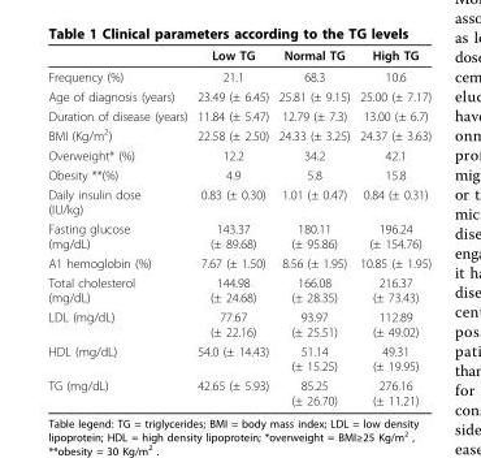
<table><thead><tr><td></td><td>Low TG</td><td>Normal TG</td><td>High TG</td></tr></thead><tbody><tr><td>Frequency (%)</td><td>21.1</td><td>68.3</td><td>10.6</td></tr><tr><td>Age of diagnosis (years)</td><td>23.49 (± 6.45)</td><td>25.81 (± 9.15)</td><td>25.00 (± 7.17)</td></tr><tr><td>Duration of disease (years)</td><td>11.84 (± 5.47)</td><td>12.79 (± 7.3)</td><td>13.00 (± 6.7)</td></tr><tr><td>BMI (Kg/m<sup>2</sup>)</td><td>22.58 (± 2.50)</td><td>24.33 (± 3.25)</td><td>24.37 (± 3.63)</td></tr><tr><td>Overweight* (%)</td><td>12.2</td><td>34.2</td><td>42.1</td></tr><tr><td>Obesity **(%)</td><td>4.9</td><td>5.8</td><td>15.8</td></tr><tr><td>Daily insulin dose (IU/kg)</td><td>0.83 (± 0.30)</td><td>1.01 (± 0.47)</td><td>0.84 (± 0.31)</td></tr><tr><td>Fasting glucose (mg/dL)</td><td>143.37 (± 89.68)</td><td>180.11 (± 95.86)</td><td>196.24 (± 154.76)</td></tr><tr><td>A1 hemoglobin (%)</td><td>7.67 (± 1.50)</td><td>8.56 (± 1.95)</td><td>10.85 (± 1.95)</td></tr><tr><td>Total cholesterol (mg/dL)</td><td>144.98 (± 24.68)</td><td>166.08 (± 28.35)</td><td>216.37 (± 73.43)</td></tr><tr><td>LDL (mg/dL)</td><td>77.67 (± 22.16)</td><td>93.97 (± 25.51)</td><td>112.89 (± 49.02)</td></tr><tr><td>HDL (mg/dL)</td><td>54.0 (± 14.43)</td><td>51.14 (± 15.25)</td><td>49.31 (± 19.95)</td></tr><tr><td>TG (mg/dL)</td><td>42.65 (± 5.93)</td><td>85.25 (± 26.70)</td><td>276.16 (± 11.21)</td></tr></tbody></table>